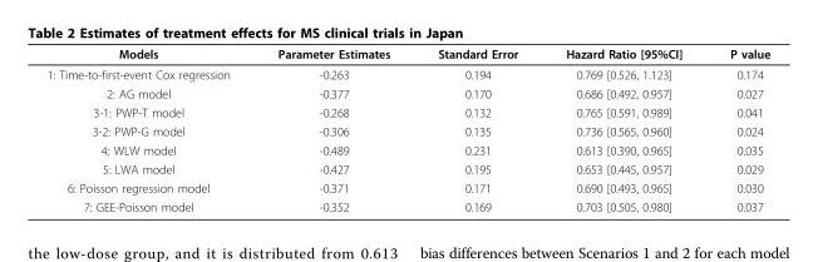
<table><thead><tr><td>Models</td><td>Parameter Estimates</td><td>Standard Error</td><td>Hazard Ratio [95%CI]</td><td>P value</td></tr></thead><tbody><tr><td>1: Time-to-first-event Cox regression</td><td>-0.263</td><td>0.194</td><td>0.769 [0.526, 1.123]</td><td>0.174</td></tr><tr><td>2: AG model</td><td>-0.377</td><td>0.170</td><td>0.686 [0.492, 0.957]</td><td>0.027</td></tr><tr><td>3-1: PWP-T model</td><td>-0.268</td><td>0.132</td><td>0.765 [0.591, 0.989]</td><td>0.041</td></tr><tr><td>3-2: PWP-G model</td><td>-0.306</td><td>0.135</td><td>0.736 [0.565, 0.960]</td><td>0.024</td></tr><tr><td>4: WLW model</td><td>-0.489</td><td>0.231</td><td>0.613 [0.390, 0.965]</td><td>0.035</td></tr><tr><td>5: LWA model</td><td>-0.427</td><td>0.195</td><td>0.653 [0.445, 0.957]</td><td>0.029</td></tr><tr><td>6: Poisson regression model</td><td>-0.371</td><td>0.171</td><td>0.690 [0.493, 0.965]</td><td>0.030</td></tr><tr><td>7: GEE-Poisson model</td><td>-0.352</td><td>0.169</td><td>0.703 [0.505, 0.980]</td><td>0.037</td></tr></tbody></table>